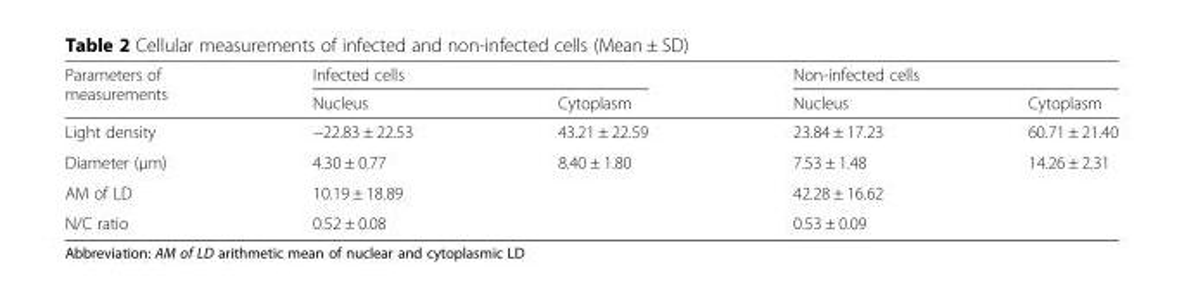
<table><thead><tr><td rowspan="2">Parameters of measurements</td><td colspan="2">Infected cells</td><td colspan="2">Non-infected cells</td></tr><tr><td>Nucleus</td><td>Cytoplasm</td><td>Nucleus</td><td>Cytoplasm</td></tr></thead><tbody><tr><td>Light density</td><td>−22.83 ± 22.53</td><td>43.21 ± 22.59</td><td>23.84 ± 17.23</td><td>60.71 ± 21.40</td></tr><tr><td>Diameter (μm)</td><td>4.30 ± 0.77</td><td>8.40 ± 1.80</td><td>7.53 ± 1.48</td><td>14.26 ± 2.31</td></tr><tr><td>AM of LD</td><td colspan="2">10.19 ± 18.89</td><td colspan="2">42.28 ± 16.62</td></tr><tr><td>N/C ratio</td><td colspan="2">0.52 ± 0.08</td><td colspan="2">0.53 ± 0.09</td></tr></tbody></table>